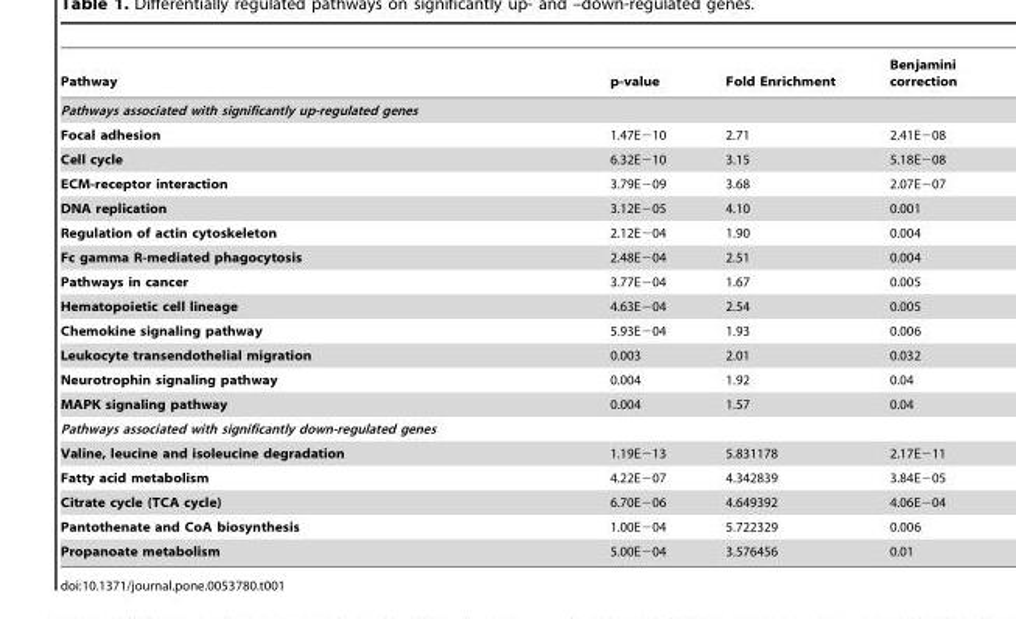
<table><thead><tr><td>Pathway</td><td>p-value</td><td>Fold Enrichment</td><td>Benjamini correction</td></tr></thead><tbody><tr><td colspan="4">Pathways associated with significantly up-regulated genes</td></tr><tr><td>Focal adhesion</td><td>1.47E−10</td><td>2.71</td><td>2.41E−08</td></tr><tr><td>Cell cycle</td><td>6.32E−10</td><td>3.15</td><td>5.18E−08</td></tr><tr><td>ECM-receptor interaction</td><td>3.79E−09</td><td>3.68</td><td>2.07E−07</td></tr><tr><td>DNA replication</td><td>3.12E−05</td><td>4.10</td><td>0.001</td></tr><tr><td>Regulation of actin cytoskeleton</td><td>2.12E−04</td><td>1.90</td><td>0.004</td></tr><tr><td>Fc gamma R-mediated phagocytosis</td><td>2.48E−04</td><td>2.51</td><td>0.004</td></tr><tr><td>Pathways in cancer</td><td>3.77E−04</td><td>1.67</td><td>0.005</td></tr><tr><td>Hematopoietic cell lineage</td><td>4.63E−04</td><td>2.54</td><td>0.005</td></tr><tr><td>Chemokine signaling pathway</td><td>5.93E−04</td><td>1.93</td><td>0.006</td></tr><tr><td>Leukocyte transendothelial migration</td><td>0.003</td><td>2.01</td><td>0.032</td></tr><tr><td>Neurotrophin signaling pathway</td><td>0.004</td><td>1.92</td><td>0.04</td></tr><tr><td>MAPK signaling pathway</td><td>0.004</td><td>1.57</td><td>0.04</td></tr><tr><td colspan="4">Pathways associated with significantly down-regulated genes</td></tr><tr><td>Valine, leucine and isoleucine degradation</td><td>1.19E−13</td><td>5.831178</td><td>2.17E−11</td></tr><tr><td>Fatty acid metabolism</td><td>4.22E−07</td><td>4.342839</td><td>3.84E−05</td></tr><tr><td>Citrate cycle (TCA cycle)</td><td>6.70E−06</td><td>4.649392</td><td>4.06E−04</td></tr><tr><td>Pantothenate and CoA biosynthesis</td><td>1.00E−04</td><td>5.722329</td><td>0.006</td></tr><tr><td>Propanoate metabolism</td><td>5.00E−04</td><td>3.576456</td><td>0.01</td></tr></tbody></table>